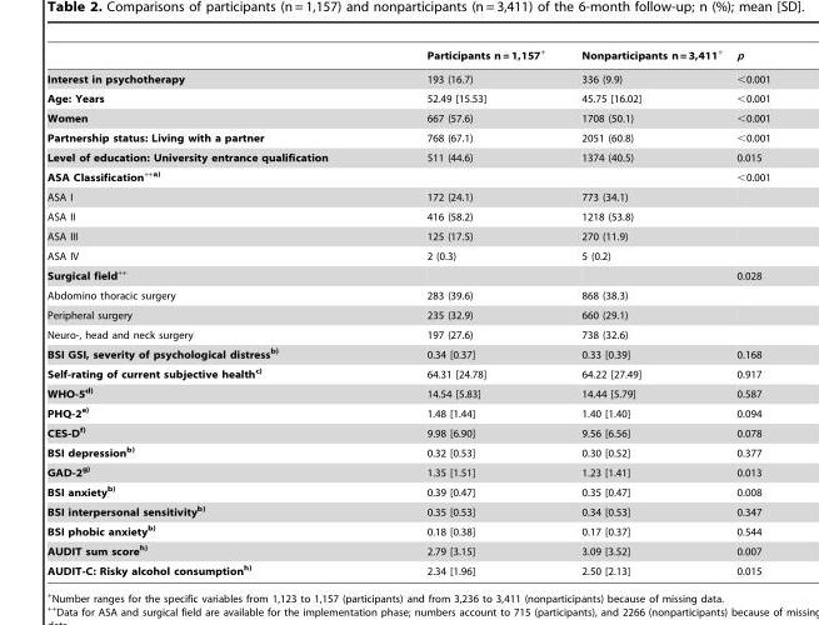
<table><thead><tr><td></td><td>Participants n = 1,157+</td><td>Nonparticipants n = 3,411+</td><td>p</td></tr></thead><tbody><tr><td>Interest in psychotherapy</td><td>193 (16.7)</td><td>336 (9.9)</td><td>&lt;0.001</td></tr><tr><td>Age: Years</td><td>52.49 [15.53]</td><td>45.75 [16.02]</td><td>&lt;0.001</td></tr><tr><td>Women</td><td>667 (57.6)</td><td>1708 (50.1)</td><td>&lt;0.001</td></tr><tr><td>Partnership status: Living with a partner</td><td>768 (67.1)</td><td>2051 (60.8)</td><td>&lt;0.001</td></tr><tr><td>Level of education: University entrance qualification</td><td>511 (44.6)</td><td>1374 (40.5)</td><td>0.015</td></tr><tr><td>ASA Classification<sup>++a)</sup></td><td></td><td></td><td>&lt;0.001</td></tr><tr><td>ASA I</td><td>172 (24.1)</td><td>773 (34.1)</td><td></td></tr><tr><td>ASA II</td><td>416 (58.2)</td><td>1218 (53.8)</td><td></td></tr><tr><td>ASA III</td><td>125 (17.5)</td><td>270 (11.9)</td><td></td></tr><tr><td>ASA IV</td><td>2 (0.3)</td><td>5 (0.2)</td><td></td></tr><tr><td>Surgical field++</td><td></td><td></td><td>0.028</td></tr><tr><td>Abdomino thoracic surgery</td><td>283 (39.6)</td><td>868 (38.3)</td><td></td></tr><tr><td>Peripheral surgery</td><td>235 (32.9)</td><td>660 (29.1)</td><td></td></tr><tr><td>Neuro-, head and neck surgery</td><td>197 (27.6)</td><td>738 (32.6)</td><td></td></tr><tr><td>BSI GSI, severity of psychological distressb)</td><td>0.34 [0.37]</td><td>0.33 [0.39]</td><td>0.168</td></tr><tr><td>Self-rating of current subjective healthc)</td><td>64.31 [24.78]</td><td>64.22 [27.49]</td><td>0.917</td></tr><tr><td>WHO-5d)</td><td>14.54 [5.83]</td><td>14.44 [5.79]</td><td>0.587</td></tr><tr><td>PHQ-2e)</td><td>1.48 [1.44]</td><td>1.40 [1.40]</td><td>0.094</td></tr><tr><td>CES-Df)</td><td>9.98 [6.90]</td><td>9.56 [6.56]</td><td>0.078</td></tr><tr><td>BSI depressionb)</td><td>0.32 [0.53]</td><td>0.30 [0.52]</td><td>0.377</td></tr><tr><td>GAD-2g)</td><td>1.35 [1.51]</td><td>1.23 [1.41]</td><td>0.013</td></tr><tr><td>BSI anxietyb)</td><td>0.39 [0.47]</td><td>0.35 [0.47]</td><td>0.008</td></tr><tr><td>BSI interpersonal sensitivityb)</td><td>0.35 [0.53]</td><td>0.34 [0.53]</td><td>0.347</td></tr><tr><td>BSI phobic anxietyb)</td><td>0.18 [0.38]</td><td>0.17 [0.37]</td><td>0.544</td></tr><tr><td>AUDIT sum scoreh)</td><td>2.79 [3.15]</td><td>3.09 [3.52]</td><td>0.007</td></tr><tr><td>AUDIT-C: Risky alcohol consumptionh)</td><td>2.34 [1.96]</td><td>2.50 [2.13]</td><td>0.015</td></tr></tbody></table>